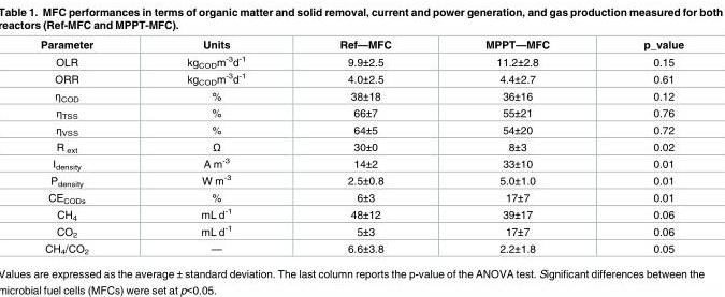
<table><thead><tr><td>Parameter</td><td>Units</td><td>Ref—MFC</td><td>MPPT—MFC</td><td>p_value</td></tr></thead><tbody><tr><td>OLR</td><td>kg<sub>COD</sub>m<sup>-3</sup>d<sup>-1</sup></td><td>9.9±2.5</td><td>11.2±2.8</td><td>0.15</td></tr><tr><td>ORR</td><td>kg<sub>COD</sub>m<sup>-3</sup>d<sup>-1</sup></td><td>4.0±2.5</td><td>4.4±2.7</td><td>0.61</td></tr><tr><td>η<sub>COD</sub></td><td>%</td><td>38±18</td><td>36±16</td><td>0.12</td></tr><tr><td>η<sub>TSS</sub></td><td>%</td><td>66±7</td><td>55±21</td><td>0.76</td></tr><tr><td>η<sub>VSS</sub></td><td>%</td><td>64±5</td><td>54±20</td><td>0.72</td></tr><tr><td>R <sub>ext</sub></td><td>Ω</td><td>30±0</td><td>8±3</td><td>0.02</td></tr><tr><td>I<sub>density</sub></td><td>A m<sup>-3</sup></td><td>14±2</td><td>33±10</td><td>0.01</td></tr><tr><td>P<sub>density</sub></td><td>W m<sup>-3</sup></td><td>2.5±0.8</td><td>5.0±1.0</td><td>0.01</td></tr><tr><td>CE<sub>CODs</sub></td><td>%</td><td>6±3</td><td>17±7</td><td>0.01</td></tr><tr><td>CH<sub>4</sub></td><td>mL d<sup>-1</sup></td><td>48±12</td><td>39±17</td><td>0.06</td></tr><tr><td>CO<sub>2</sub></td><td>mL d<sup>-1</sup></td><td>5±3</td><td>17±7</td><td>0.06</td></tr><tr><td>CH<sub>4</sub>/CO<sub>2</sub></td><td>—</td><td>6.6±3.8</td><td>2.2±1.8</td><td>0.05</td></tr></tbody></table>